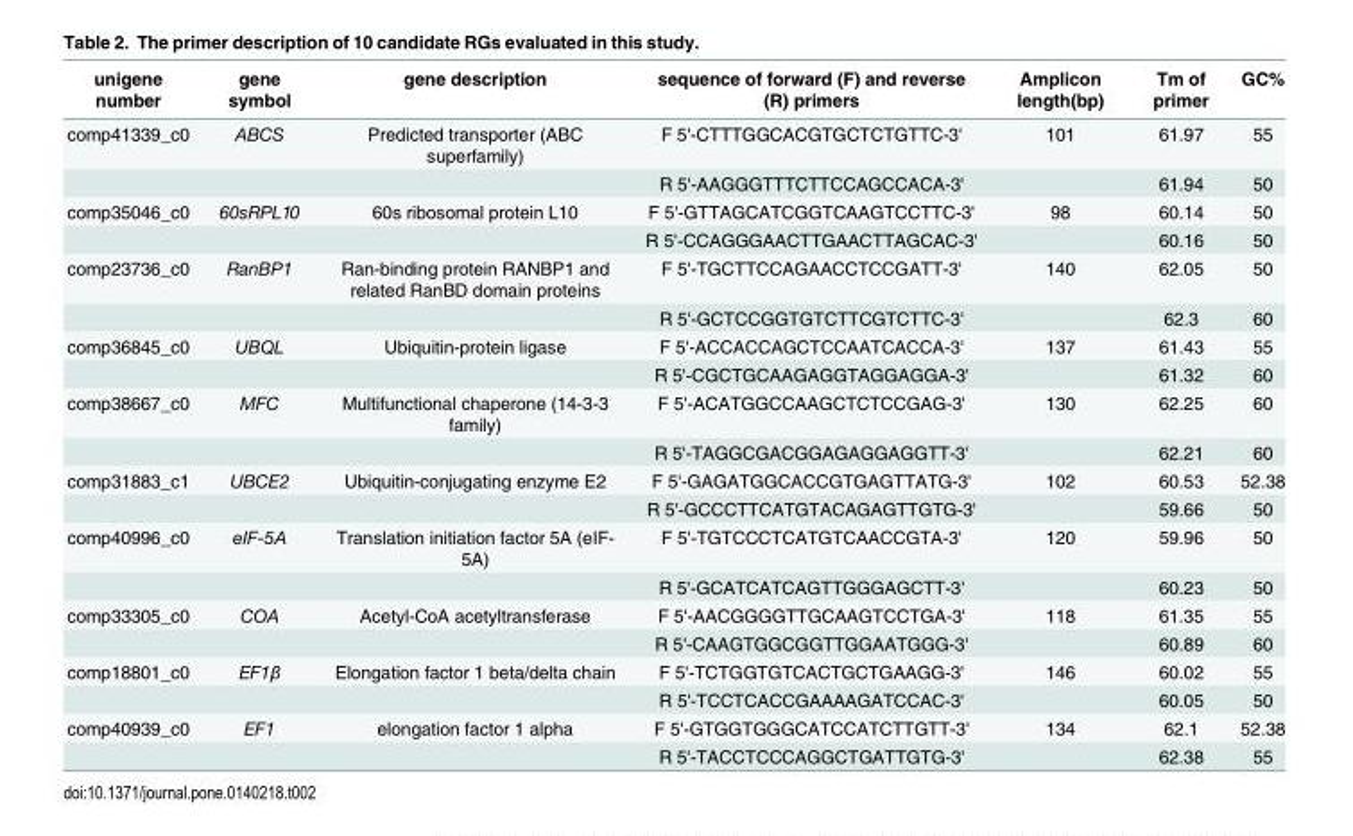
<table><thead><tr><td>unigene number</td><td>gene symbol</td><td>gene description</td><td>sequence of forward (F) and reverse (R) primers</td><td>Amplicon length(bp)</td><td>Tm of primer</td><td>GC%</td></tr></thead><tbody><tr><td rowspan="2">comp41339_c0</td><td>ABCS</td><td>Predicted transporter (ABC superfamily)</td><td>F 5&#x27;-CTTTGGCACGTGCTCTGTTC-3&#x27;</td><td>101</td><td>61.97</td><td>55</td></tr><tr><td></td><td></td><td>R 5&#x27;-AAGGGTTTCTTCCAGCCACA-3&#x27;</td><td></td><td>61.94</td><td>50</td></tr><tr><td rowspan="2">comp35046_c0</td><td>60sRPL10</td><td>60s ribosomal protein L10</td><td>F 5&#x27;-GTTAGCATCGGTCAAGTCCTTC-3&#x27;</td><td>98</td><td>60.14</td><td>50</td></tr><tr><td></td><td></td><td>R 5&#x27;-CCAGGGAACTTGAACTTAGCAC-3&#x27;</td><td></td><td>60.16</td><td>50</td></tr><tr><td rowspan="2">comp23736_c0</td><td>RanBP1</td><td>Ran-binding protein RANBP1 and related RanBD domain proteins</td><td>F 5&#x27;-TGCTTCCAGAACCTCCGATT-3&#x27;</td><td>140</td><td>62.05</td><td>50</td></tr><tr><td></td><td></td><td>R 5&#x27;-GCTCCGGTGTCTTCGTCTTC-3&#x27;</td><td></td><td>62.3</td><td>60</td></tr><tr><td rowspan="2">comp36845_c0</td><td>UBQL</td><td>Ubiquitin-protein ligase</td><td>F 5&#x27;-ACCACCAGCTCCAATCACCA-3&#x27;</td><td>137</td><td>61.43</td><td>55</td></tr><tr><td></td><td></td><td>R 5&#x27;-CGCTGCAAGAGGTAGGAGGA-3&#x27;</td><td></td><td>61.32</td><td>60</td></tr><tr><td rowspan="2">comp38667_c0</td><td>MFC</td><td>Multifunctional chaperone (14-3-3 family)</td><td>F 5&#x27;-ACATGGCCAAGCTCTCCGAG-3&#x27;</td><td>130</td><td>62.25</td><td>60</td></tr><tr><td></td><td></td><td>R 5&#x27;-TAGGCGACGGAGAGGAGGTT-3&#x27;</td><td></td><td>62.21</td><td>60</td></tr><tr><td rowspan="2">comp31883_c1</td><td>UBCE2</td><td>Ubiquitin-conjugating enzyme E2</td><td>F 5&#x27;-GAGATGGCACCGTGAGTTATG-3&#x27;</td><td>102</td><td>60.53</td><td>52.38</td></tr><tr><td></td><td></td><td>R 5&#x27;-GCCCTTCATGTACAGAGTTGTG-3&#x27;</td><td></td><td>59.66</td><td>50</td></tr><tr><td rowspan="2">comp40996_c0</td><td>eIF-5A</td><td>Translation initiation factor 5A (eIF- 5A)</td><td>F 5&#x27;-TGTCCCTCATGTCAACCGTA-3&#x27;</td><td>120</td><td>59.96</td><td>50</td></tr><tr><td></td><td></td><td>R 5&#x27;-GCATCATCAGTTGGGAGCTT-3&#x27;</td><td></td><td>60.23</td><td>50</td></tr><tr><td rowspan="2">comp33305_c0</td><td>COA</td><td>Acetyl-CoA acetyltransferase</td><td>F 5&#x27;-AACGGGGTTGCAAGTCCTGA-3&#x27;</td><td>118</td><td>61.35</td><td>55</td></tr><tr><td></td><td></td><td>R 5&#x27;-CAAGTGGCGGTTGGAATGGG-3&#x27;</td><td></td><td>60.89</td><td>60</td></tr><tr><td rowspan="2">comp18801_c0</td><td>EF1β</td><td>Elongation factor 1 beta/delta chain</td><td>F 5&#x27;-TCTGGTGTCACTGCTGAAGG-3&#x27;</td><td>146</td><td>60.02</td><td>55</td></tr><tr><td></td><td></td><td>R 5&#x27;-TCCTCACCGAAAAGATCCAC-3&#x27;</td><td></td><td>60.05</td><td>50</td></tr><tr><td rowspan="2">comp40939_c0</td><td>EF1</td><td>elongation factor 1 alpha</td><td>F 5&#x27;-GTGGTGGGCATCCATCTTGTT-3&#x27;</td><td>134</td><td>62.1</td><td>52.38</td></tr><tr><td></td><td></td><td>R 5&#x27;-TACCTCCCAGGCTGATTGTG-3&#x27;</td><td></td><td>62.38</td><td>55</td></tr></tbody></table>